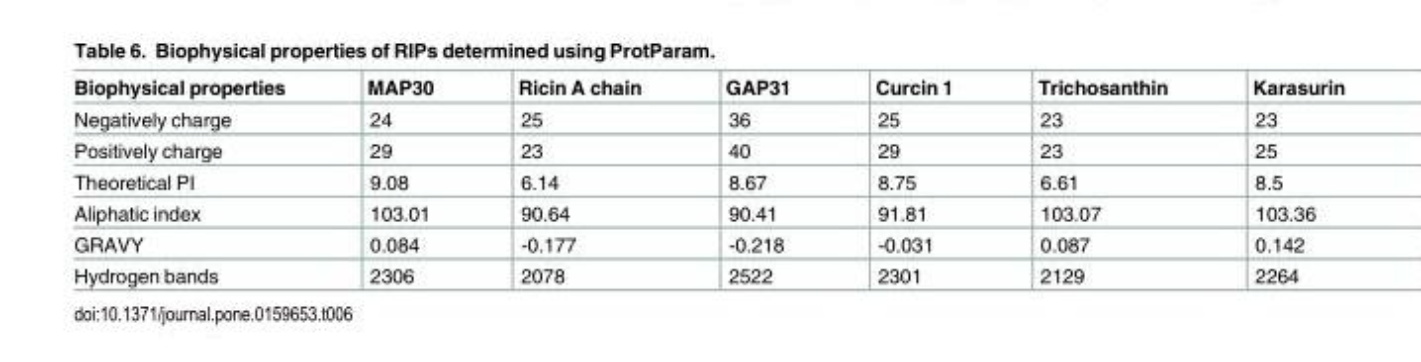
<table><thead><tr><td>Biophysical properties</td><td>MAP30</td><td>Ricin A chain</td><td>GAP31</td><td>Curcin 1</td><td>Trichosanthin</td><td>Karasurin</td></tr></thead><tbody><tr><td>Negatively charge</td><td>24</td><td>25</td><td>36</td><td>25</td><td>23</td><td>23</td></tr><tr><td>Positively charge</td><td>29</td><td>23</td><td>40</td><td>29</td><td>23</td><td>25</td></tr><tr><td>Theoretical PI</td><td>9.08</td><td>6.14</td><td>8.67</td><td>8.75</td><td>6.61</td><td>8.5</td></tr><tr><td>Aliphatic index</td><td>103.01</td><td>90.64</td><td>90.41</td><td>91.81</td><td>103.07</td><td>103.36</td></tr><tr><td>GRAVY</td><td>0.084</td><td>-0.177</td><td>-0.218</td><td>-0.031</td><td>0.087</td><td>0.142</td></tr><tr><td>Hydrogen bands</td><td>2306</td><td>2078</td><td>2522</td><td>2301</td><td>2129</td><td>2264</td></tr></tbody></table>